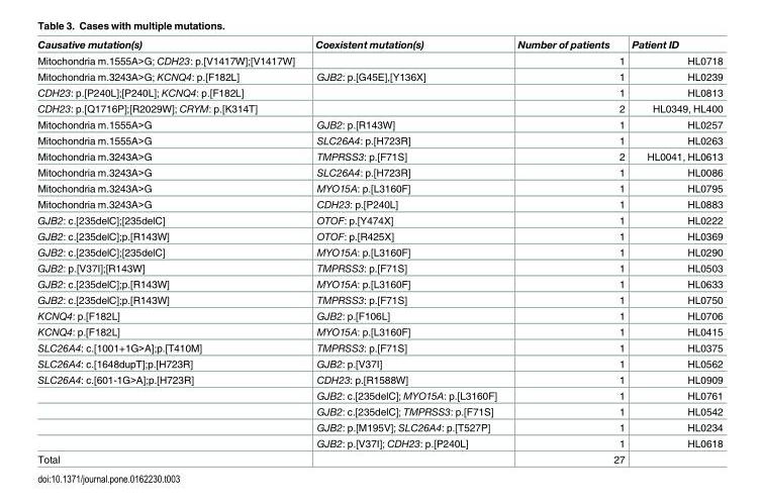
<table><thead><tr><td>Causative mutation(s)</td><td>Coexistent mutation(s)</td><td>Number of patients</td><td>Patient ID</td></tr></thead><tbody><tr><td>Mitochondria m.1555A&gt;G; CDH23: p.[V1417W];[V1417W]</td><td></td><td>1</td><td>HL0718</td></tr><tr><td>Mitochondria m.3243A&gt;G; KCNQ4: p.[F182L]</td><td>GJB2: p.[G45E],[Y136X]</td><td>1</td><td>HL0239</td></tr><tr><td>CDH23: p.[P240L];[P240L]; KCNQ4: p.[F182L]</td><td></td><td>1</td><td>HL0813</td></tr><tr><td>CDH23: p.[Q1716P];[R2029W]; CRYM: p.[K314T]</td><td></td><td>2</td><td>HL0349, HL400</td></tr><tr><td>Mitochondria m.1555A&gt;G</td><td>GJB2: p.[R143W]</td><td>1</td><td>HL0257</td></tr><tr><td>Mitochondria m.1555A&gt;G</td><td>SLC26A4: p.[H723R]</td><td>1</td><td>HL0263</td></tr><tr><td>Mitochondria m.3243A&gt;G</td><td>TMPRSS3: p.[F71S]</td><td>2</td><td>HL0041, HL0613</td></tr><tr><td>Mitochondria m.3243A&gt;G</td><td>SLC26A4: p.[H723R]</td><td>1</td><td>HL0086</td></tr><tr><td>Mitochondria m.3243A&gt;G</td><td>MYO15A: p.[L3160F]</td><td>1</td><td>HL0795</td></tr><tr><td>Mitochondria m.3243A&gt;G</td><td>CDH23: p.[P240L]</td><td>1</td><td>HL0883</td></tr><tr><td>GJB2: c.[235delC];[235delC]</td><td>OTOF: p.[Y474X]</td><td>1</td><td>HL0222</td></tr><tr><td>GJB2: c.[235delC];p.[R143W]</td><td>OTOF: p.[R425X]</td><td>1</td><td>HL0369</td></tr><tr><td>GJB2: c.[235delC];[235delC]</td><td>MYO15A: p.[L3160F]</td><td>1</td><td>HL0290</td></tr><tr><td>GJB2: p.[V37I];[R143W]</td><td>TMPRSS3: p.[F71S]</td><td>1</td><td>HL0503</td></tr><tr><td>GJB2: c.[235delC];p.[R143W]</td><td>MYO15A: p.[L3160F]</td><td>1</td><td>HL0633</td></tr><tr><td>GJB2: c.[235delC];p.[R143W]</td><td>TMPRSS3: p.[F71S]</td><td>1</td><td>HL0750</td></tr><tr><td>KCNQ4: p.[F182L]</td><td>GJB2: p.[F106L]</td><td>1</td><td>HL0706</td></tr><tr><td>KCNQ4: p.[F182L]</td><td>MYO15A: p.[L3160F]</td><td>1</td><td>HL0415</td></tr><tr><td>SLC26A4: c.[1001+1G&gt;A];p.[T410M]</td><td>TMPRSS3: p.[F71S]</td><td>1</td><td>HL0375</td></tr><tr><td>SLC26A4: c.[1648dupT];p.[H723R]</td><td>GJB2: p.[V37I]</td><td>1</td><td>HL0562</td></tr><tr><td rowspan="5">SLC26A4: c.[601-1G&gt;A];p.[H723R]</td><td>CDH23: p.[R1588W]</td><td>1</td><td>HL0909</td></tr><tr><td>GJB2: c.[235delC]; MYO15A: p.[L3160F]</td><td>1</td><td>HL0761</td></tr><tr><td>GJB2: c.[235delC]; TMPRSS3: p.[F71S]</td><td>1</td><td>HL0542</td></tr><tr><td>GJB2: p.[M195V]; SLC26A4: p.[T527P]</td><td>1</td><td>HL0234</td></tr><tr><td>GJB2: p.[V37I]; CDH23: p.[P240L]</td><td>1</td><td>HL0618</td></tr><tr><td>Total</td><td></td><td>27</td><td></td></tr></tbody></table>